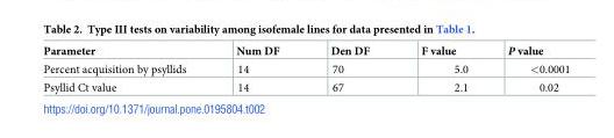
<table><thead><tr><td>Parameter</td><td>Num DF</td><td>Den DF</td><td>F value</td><td>P value</td></tr></thead><tbody><tr><td>Percent acquisition by psyllids</td><td>14</td><td>70</td><td>5.0</td><td>&lt;0.0001</td></tr><tr><td>Psyllid Ct value</td><td>14</td><td>67</td><td>2.1</td><td>0.02</td></tr></tbody></table>